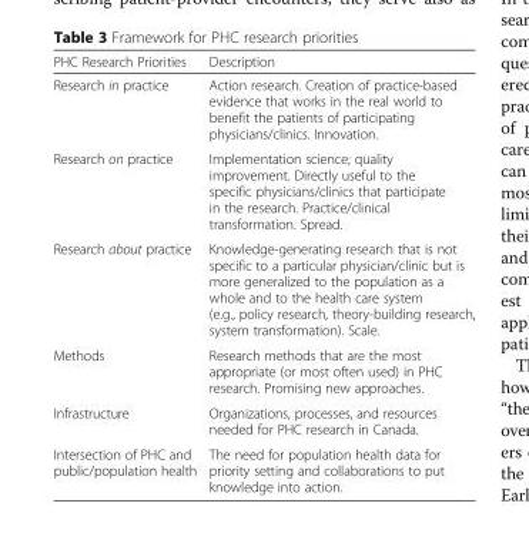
<table><thead><tr><td>PHC Research Priorities</td><td>Description</td></tr></thead><tbody><tr><td>Research in practice</td><td>Action research. Creation of practice-based evidence that works in the real world to benefit the patients of participating physicians/clinics. Innovation.</td></tr><tr><td>Research on practice</td><td>Implementation science; quality improvement. Directly useful to the specific physicians/clinics that participate in the research. Practice/clinical transformation. Spread.</td></tr><tr><td>Research about practice</td><td>Knowledge-generating research that is not specific to a particular physician/clinic but is more generalized to the population as a whole and to the health care system (e.g., policy research, theory-building research, system transformation). Scale.</td></tr><tr><td>Methods</td><td>Research methods that are the most appropriate (or most often used) in PHC research. Promising new approaches.</td></tr><tr><td>Infrastructure</td><td>Organizations, processes, and resources needed for PHC research in Canada.</td></tr><tr><td>Intersection of PHC and public/population health</td><td>The need for population health data for priority setting and collaborations to put knowledge into action.</td></tr></tbody></table>